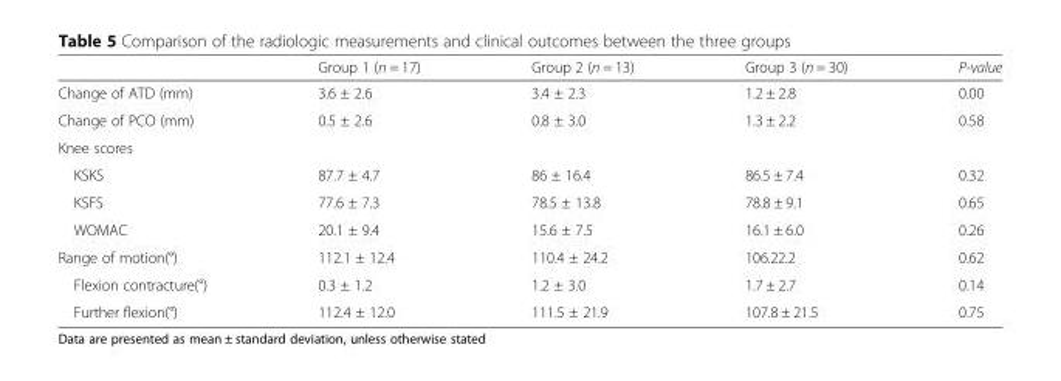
<table><thead><tr><td></td><td>Group 1 (n = 17)</td><td>Group 2 (n = 13)</td><td>Group 3 (n = 30)</td><td>P-value</td></tr></thead><tbody><tr><td>Change of ATD (mm)</td><td>3.6 ± 2.6</td><td>3.4 ± 2.3</td><td>1.2 ± 2.8</td><td>0.00</td></tr><tr><td>Change of PCO (mm)</td><td>0.5 ± 2.6</td><td>0.8 ± 3.0</td><td>1.3 ± 2.2</td><td>0.58</td></tr><tr><td colspan="5">Knee scores</td></tr><tr><td>KSKS</td><td>87.7 ± 4.7</td><td>86 ± 16.4</td><td>86.5 ± 7.4</td><td>0.32</td></tr><tr><td>KSFS</td><td>77.6 ± 7.3</td><td>78.5 ± 13.8</td><td>78.8 ± 9.1</td><td>0.65</td></tr><tr><td>WOMAC</td><td>20.1 ± 9.4</td><td>15.6 ± 7.5</td><td>16.1 ± 6.0</td><td>0.26</td></tr><tr><td>Range of motion(°)</td><td>112.1 ± 12.4</td><td>110.4 ± 24.2</td><td>106.22.2</td><td>0.62</td></tr><tr><td>Flexion contracture(°)</td><td>0.3 ± 1.2</td><td>1.2 ± 3.0</td><td>1.7 ± 2.7</td><td>0.14</td></tr><tr><td>Further flexion(°)</td><td>112.4 ± 12.0</td><td>111.5 ± 21.9</td><td>107.8 ± 21.5</td><td>0.75</td></tr></tbody></table>